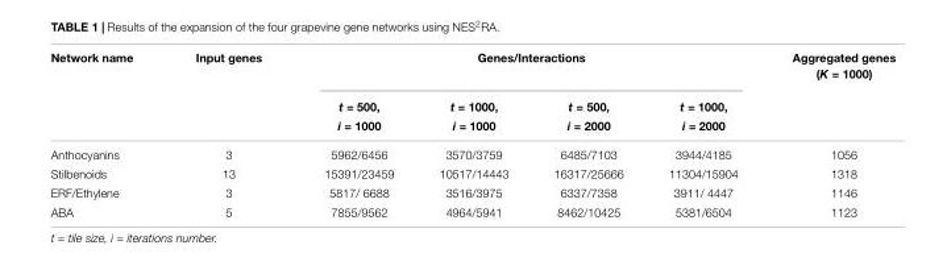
<table><thead><tr><td rowspan="3">Network name</td><td rowspan="3">Input genes</td><td colspan="4">Genes/Interactions</td><td rowspan="3">Aggregated genes (K = 1000)</td></tr><tr><td rowspan="2">t = 500, i = 1000</td><td rowspan="2">t = 1000, i = 1000</td><td rowspan="2">t = 500, i = 2000</td><td rowspan="2">t = 1000, i = 2000</td></tr><tr></tr></thead><tbody><tr><td>Anthocyanins</td><td>3</td><td>5962/6456</td><td>3570/3759</td><td>6485/7103</td><td>3944/4185</td><td>1056</td></tr><tr><td>Stilbenoids</td><td>13</td><td>15391/23459</td><td>10517/14443</td><td>16317/25666</td><td>11304/15904</td><td>1318</td></tr><tr><td>ERF/Ethylene</td><td>3</td><td>5817/ 6688</td><td>3516/3975</td><td>6337/7358</td><td>3911/ 4447</td><td>1146</td></tr><tr><td>ABA</td><td>5</td><td>7855/9562</td><td>4964/5941</td><td>8462/10425</td><td>5381/6504</td><td>1123</td></tr></tbody></table>